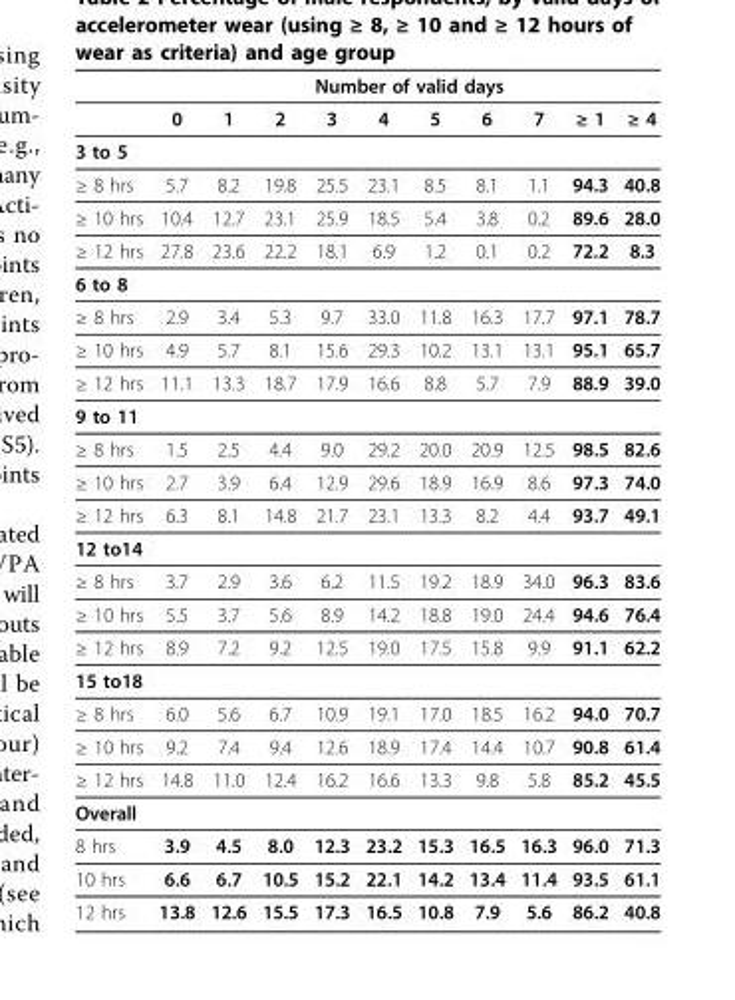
<table><thead><tr><td rowspan="2"></td><td colspan="10">Number of valid days</td></tr><tr><td>0</td><td>1</td><td>2</td><td>3</td><td>4</td><td>5</td><td>6</td><td>7</td><td>≥ 1</td><td>≥ 4</td></tr></thead><tbody><tr><td colspan="11">3 to 5</td></tr><tr><td>≥ 8 hrs</td><td>5.7</td><td>8.2</td><td>19.8</td><td>25.5</td><td>23.1</td><td>8.5</td><td>8.1</td><td>1.1</td><td>94.3</td><td>40.8</td></tr><tr><td>≥ 10 hrs</td><td>10.4</td><td>12.7</td><td>23.1</td><td>25.9</td><td>18.5</td><td>5.4</td><td>3.8</td><td>0.2</td><td>89.6</td><td>28.0</td></tr><tr><td>≥ 12 hrs</td><td>27.8</td><td>23.6</td><td>22.2</td><td>18.1</td><td>6.9</td><td>1.2</td><td>0.1</td><td>0.2</td><td>72.2</td><td>8.3</td></tr><tr><td colspan="11">6 to 8</td></tr><tr><td>≥ 8 hrs</td><td>2.9</td><td>3.4</td><td>5.3</td><td>9.7</td><td>33.0</td><td>11.8</td><td>16.3</td><td>17.7</td><td>97.1</td><td>78.7</td></tr><tr><td>≥ 10 hrs</td><td>4.9</td><td>5.7</td><td>8.1</td><td>15.6</td><td>29.3</td><td>10.2</td><td>13.1</td><td>13.1</td><td>95.1</td><td>65.7</td></tr><tr><td>≥ 12 hrs</td><td>11.1</td><td>13.3</td><td>18.7</td><td>17.9</td><td>16.6</td><td>8.8</td><td>5.7</td><td>7.9</td><td>88.9</td><td>39.0</td></tr><tr><td colspan="11">9 to 11</td></tr><tr><td>≥ 8 hrs</td><td>1.5</td><td>2.5</td><td>4.4</td><td>9.0</td><td>29.2</td><td>20.0</td><td>20.9</td><td>12.5</td><td>98.5</td><td>82.6</td></tr><tr><td>≥ 10 hrs</td><td>2.7</td><td>3.9</td><td>6.4</td><td>12.9</td><td>29.6</td><td>18.9</td><td>16.9</td><td>8.6</td><td>97.3</td><td>74.0</td></tr><tr><td>≥ 12 hrs</td><td>6.3</td><td>8.1</td><td>14.8</td><td>21.7</td><td>23.1</td><td>13.3</td><td>8.2</td><td>4.4</td><td>93.7</td><td>49.1</td></tr><tr><td colspan="11">12 to14</td></tr><tr><td>≥ 8 hrs</td><td>3.7</td><td>2.9</td><td>3.6</td><td>6.2</td><td>11.5</td><td>19.2</td><td>18.9</td><td>34.0</td><td>96.3</td><td>83.6</td></tr><tr><td>≥ 10 hrs</td><td>5.5</td><td>3.7</td><td>5.6</td><td>8.9</td><td>14.2</td><td>18.8</td><td>19.0</td><td>24.4</td><td>94.6</td><td>76.4</td></tr><tr><td>≥ 12 hrs</td><td>8.9</td><td>7.2</td><td>9.2</td><td>12.5</td><td>19.0</td><td>17.5</td><td>15.8</td><td>9.9</td><td>91.1</td><td>62.2</td></tr><tr><td colspan="11">15 to18</td></tr><tr><td>≥ 8 hrs</td><td>6.0</td><td>5.6</td><td>6.7</td><td>10.9</td><td>19.1</td><td>17.0</td><td>18.5</td><td>16.2</td><td>94.0</td><td>70.7</td></tr><tr><td>≥ 10 hrs</td><td>9.2</td><td>7.4</td><td>9.4</td><td>12.6</td><td>18.9</td><td>17.4</td><td>14.4</td><td>10.7</td><td>90.8</td><td>61.4</td></tr><tr><td>≥ 12 hrs</td><td>14.8</td><td>11.0</td><td>12.4</td><td>16.2</td><td>16.6</td><td>13.3</td><td>9.8</td><td>5.8</td><td>85.2</td><td>45.5</td></tr><tr><td colspan="11">Overall</td></tr><tr><td>8 hrs</td><td>3.9</td><td>4.5</td><td>8.0</td><td>12.3</td><td>23.2</td><td>15.3</td><td>16.5</td><td>16.3</td><td>96.0</td><td>71.3</td></tr><tr><td>10 hrs</td><td>6.6</td><td>6.7</td><td>10.5</td><td>15.2</td><td>22.1</td><td>14.2</td><td>13.4</td><td>11.4</td><td>93.5</td><td>61.1</td></tr><tr><td>12 hrs</td><td>13.8</td><td>12.6</td><td>15.5</td><td>17.3</td><td>16.5</td><td>10.8</td><td>7.9</td><td>5.6</td><td>86.2</td><td>40.8</td></tr></tbody></table>